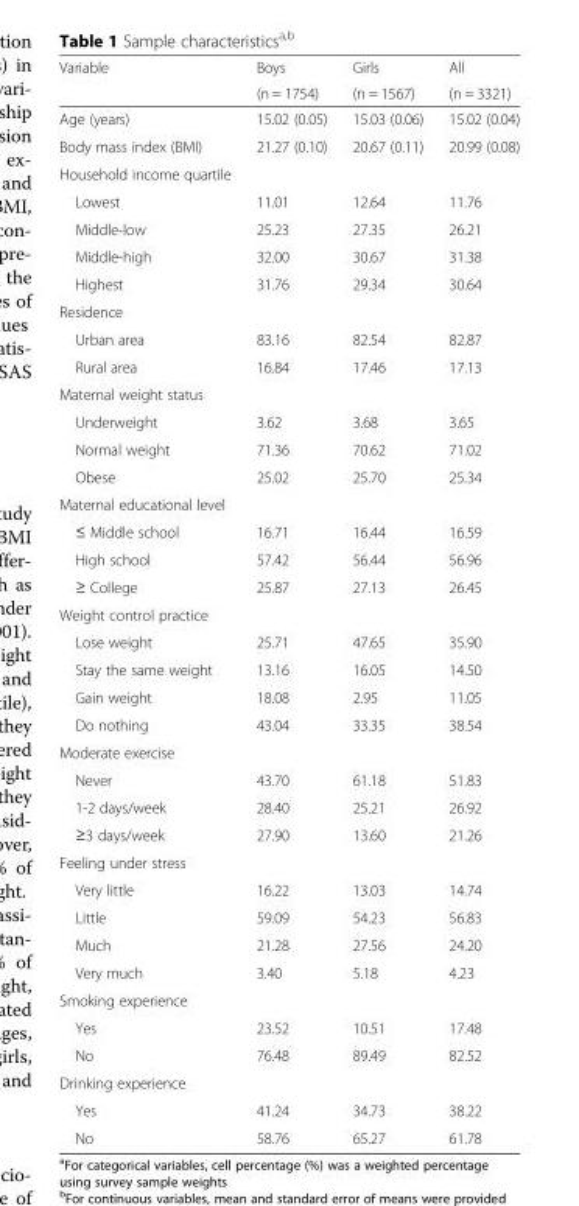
<table><thead><tr><td rowspan="2">Variable</td><td rowspan="2">Boys (n = 1754)</td><td rowspan="2">Girls (n = 1567)</td><td rowspan="2">All (n = 3321)</td></tr><tr></tr></thead><tbody><tr><td>Age (years)</td><td>15.02 (0.05)</td><td>15.03 (0.06)</td><td>15.02 (0.04)</td></tr><tr><td>Body mass index (BMI)</td><td>21.27 (0.10)</td><td>20.67 (0.11)</td><td>20.99 (0.08)</td></tr><tr><td colspan="4">Household income quartile</td></tr><tr><td>Lowest</td><td>11.01</td><td>12.64</td><td>11.76</td></tr><tr><td>Middle-low</td><td>25.23</td><td>27.35</td><td>26.21</td></tr><tr><td>Middle-high</td><td>32.00</td><td>30.67</td><td>31.38</td></tr><tr><td>Highest</td><td>31.76</td><td>29.34</td><td>30.64</td></tr><tr><td colspan="4">Residence</td></tr><tr><td>Urban area</td><td>83.16</td><td>82.54</td><td>82.87</td></tr><tr><td>Rural area</td><td>16.84</td><td>17.46</td><td>17.13</td></tr><tr><td colspan="4">Maternal weight status</td></tr><tr><td>Underweight</td><td>3.62</td><td>3.68</td><td>3.65</td></tr><tr><td>Normal weight</td><td>71.36</td><td>70.62</td><td>71.02</td></tr><tr><td>Obese</td><td>25.02</td><td>25.70</td><td>25.34</td></tr><tr><td colspan="4">Maternal educational level</td></tr><tr><td>≤ Middle school</td><td>16.71</td><td>16.44</td><td>16.59</td></tr><tr><td>High school</td><td>57.42</td><td>56.44</td><td>56.96</td></tr><tr><td>≥ College</td><td>25.87</td><td>27.13</td><td>26.45</td></tr><tr><td colspan="4">Weight control practice</td></tr><tr><td>Lose weight</td><td>25.71</td><td>47.65</td><td>35.90</td></tr><tr><td>Stay the same weight</td><td>13.16</td><td>16.05</td><td>14.50</td></tr><tr><td>Gain weight</td><td>18.08</td><td>2.95</td><td>11.05</td></tr><tr><td>Do nothing</td><td>43.04</td><td>33.35</td><td>38.54</td></tr><tr><td colspan="4">Moderate exercise</td></tr><tr><td>Never</td><td>43.70</td><td>61.18</td><td>51.83</td></tr><tr><td>1-2 days/week</td><td>28.40</td><td>25.21</td><td>26.92</td></tr><tr><td>≥3 days/week</td><td>27.90</td><td>13.60</td><td>21.26</td></tr><tr><td colspan="4">Feeling under stress</td></tr><tr><td>Very little</td><td>16.22</td><td>13.03</td><td>14.74</td></tr><tr><td>Little</td><td>59.09</td><td>54.23</td><td>56.83</td></tr><tr><td>Much</td><td>21.28</td><td>27.56</td><td>24.20</td></tr><tr><td>Very much</td><td>3.40</td><td>5.18</td><td>4.23</td></tr><tr><td colspan="4">Smoking experience</td></tr><tr><td>Yes</td><td>23.52</td><td>10.51</td><td>17.48</td></tr><tr><td>No</td><td>76.48</td><td>89.49</td><td>82.52</td></tr><tr><td colspan="4">Drinking experience</td></tr><tr><td>Yes</td><td>41.24</td><td>34.73</td><td>38.22</td></tr><tr><td>No</td><td>58.76</td><td>65.27</td><td>61.78</td></tr></tbody></table>